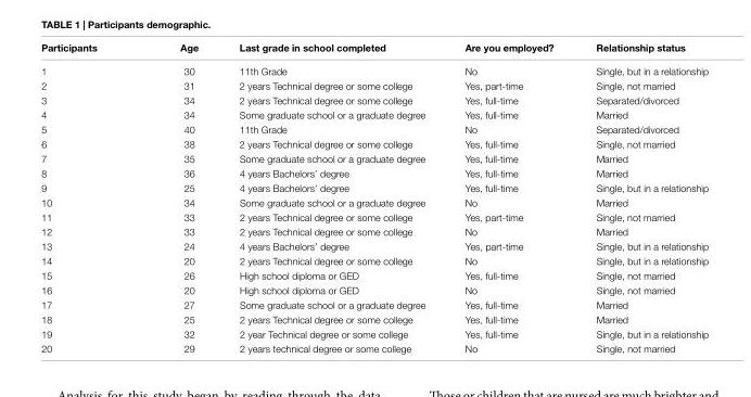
<table><thead><tr><td>Participants</td><td>age</td><td>last grade in school completed</td><td>are you employed?</td><td>relationship status</td></tr></thead><tbody><tr><td>1</td><td>30</td><td>11th Grade</td><td>No</td><td>Single, but in a relationship</td></tr><tr><td>2</td><td>31</td><td>2 years Technical degree or some college</td><td>Yes, part-time</td><td>Single, not married</td></tr><tr><td>3</td><td>34</td><td>2 years Technical degree or some college</td><td>Yes, full-time</td><td>Separated/divorced</td></tr><tr><td>4</td><td>34</td><td>Some graduate school or a graduate degree</td><td>Yes, full-time</td><td>Married</td></tr><tr><td>5</td><td>40</td><td>11th Grade</td><td>No</td><td>Separated/divorced</td></tr><tr><td>6</td><td>38</td><td>2 years Technical degree or some college</td><td>Yes, full-time</td><td>Single, not married</td></tr><tr><td>7</td><td>35</td><td>Some graduate school or a graduate degree</td><td>Yes, full-time</td><td>Married</td></tr><tr><td>8</td><td>36</td><td>4 years Bachelors’ degree</td><td>Yes, full-time</td><td>Married</td></tr><tr><td>9</td><td>25</td><td>4 years Bachelors’ degree</td><td>Yes, full-time</td><td>Single, but in a relationship</td></tr><tr><td>10</td><td>34</td><td>Some graduate school or a graduate degree</td><td>No</td><td>Married</td></tr><tr><td>11</td><td>33</td><td>2 years Technical degree or some college</td><td>Yes, part-time</td><td>Single, not married</td></tr><tr><td>12</td><td>33</td><td>2 years Technical degree or some college</td><td>No</td><td>Married</td></tr><tr><td>13</td><td>24</td><td>4 years Bachelors’ degree</td><td>Yes, part-time</td><td>Single, but in a relationship</td></tr><tr><td>14</td><td>20</td><td>2 years Technical degree or some college</td><td>No</td><td>Single, but in a relationship</td></tr><tr><td>15</td><td>26</td><td>High school diploma or GED</td><td>Yes, full-time</td><td>Single, not married</td></tr><tr><td>16</td><td>20</td><td>High school diploma or GED</td><td>No</td><td>Single, not married</td></tr><tr><td>17</td><td>27</td><td>Some graduate school or a graduate degree</td><td>Yes, full-time</td><td>Married</td></tr><tr><td>18</td><td>25</td><td>2 years Technical degree or some college</td><td>Yes, full-time</td><td>Married</td></tr><tr><td>19</td><td>32</td><td>2 year Technical degree or some college</td><td>Yes, full-time</td><td>Single, but in a relationship</td></tr><tr><td>20</td><td>29</td><td>2 years technical degree or some college</td><td>No</td><td>Single, not married</td></tr></tbody></table>